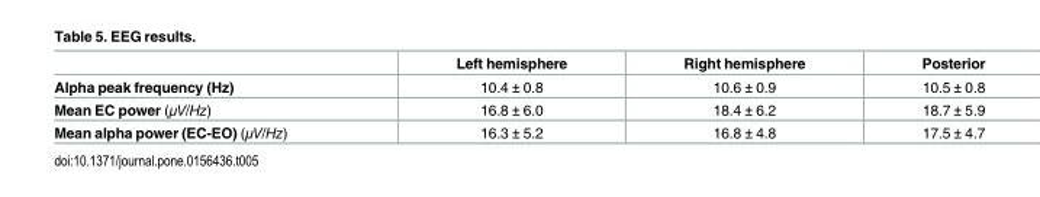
<table><thead><tr><td></td><td>Left hemisphere</td><td>Right hemisphere</td><td>Posterior</td></tr></thead><tbody><tr><td>Alpha peak frequency (Hz)</td><td>10.4 ± 0.8</td><td>10.6 ± 0.9</td><td>10.5 ± 0.8</td></tr><tr><td>Mean EC power (μV/Hz)</td><td>16.8 ± 6.0</td><td>18.4 ± 6.2</td><td>18.7 ± 5.9</td></tr><tr><td>Mean alpha power (EC-EO) (μV/Hz)</td><td>16.3 ± 5.2</td><td>16.8 ± 4.8</td><td>17.5 ± 4.7</td></tr></tbody></table>